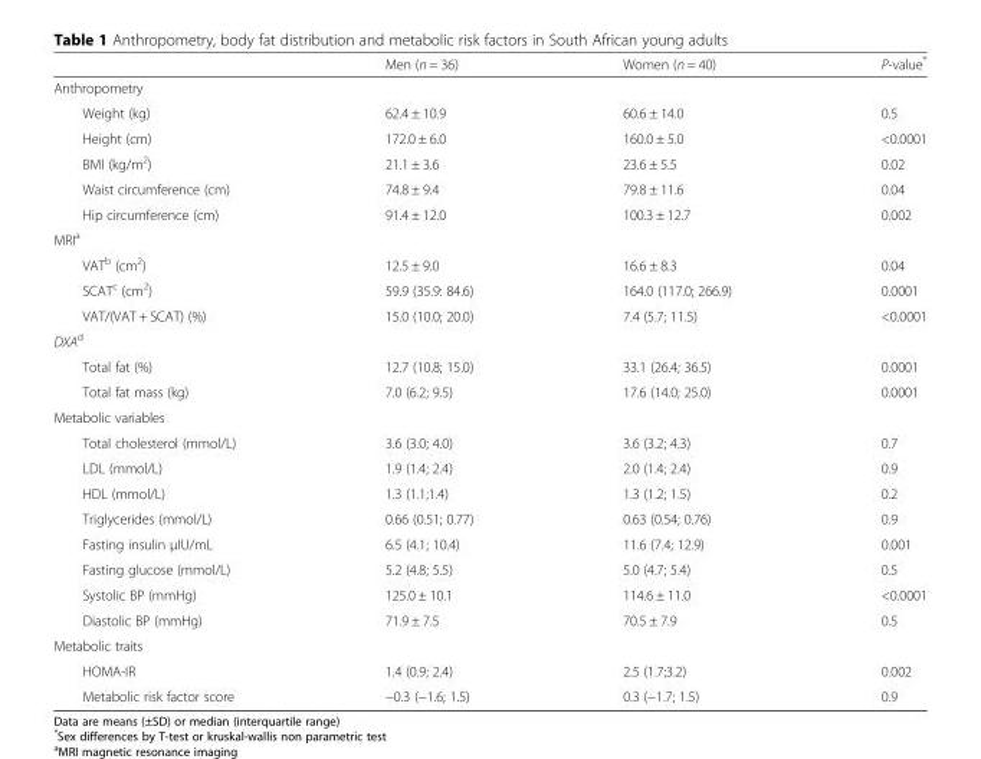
<table><thead><tr><td></td><td>Men (n = 36)</td><td>Women (n = 40)</td><td>P-value*</td></tr></thead><tbody><tr><td colspan="4">Anthropometry</td></tr><tr><td>Weight (kg)</td><td>62.4 ± 10.9</td><td>60.6 ± 14.0</td><td>0.5</td></tr><tr><td>Height (cm)</td><td>172.0 ± 6.0</td><td>160.0 ± 5.0</td><td>&lt;0.0001</td></tr><tr><td>BMI (kg/m<sup>2</sup>)</td><td>21.1 ± 3.6</td><td>23.6 ± 5.5</td><td>0.02</td></tr><tr><td>Waist circumference (cm)</td><td>74.8 ± 9.4</td><td>79.8 ± 11.6</td><td>0.04</td></tr><tr><td>Hip circumference (cm)</td><td>91.4 ± 12.0</td><td>100.3 ± 12.7</td><td>0.002</td></tr><tr><td colspan="4">MRI<sup>a</sup></td></tr><tr><td>VAT<sup>b</sup> (cm<sup>2</sup>)</td><td>12.5 ± 9.0</td><td>16.6 ± 8.3</td><td>0.04</td></tr><tr><td>SCAT<sup>c</sup> (cm<sup>2</sup>)</td><td>59.9 (35.9: 84.6)</td><td>164.0 (117.0; 266.9)</td><td>0.0001</td></tr><tr><td>VAT/(VAT + SCAT) (%)</td><td>15.0 (10.0; 20.0)</td><td>7.4 (5.7; 11.5)</td><td>&lt;0.0001</td></tr><tr><td colspan="4">DXA<sup>d</sup></td></tr><tr><td>Total fat (%)</td><td>12.7 (10.8; 15.0)</td><td>33.1 (26.4; 36.5)</td><td>0.0001</td></tr><tr><td>Total fat mass (kg)</td><td>7.0 (6.2; 9.5)</td><td>17.6 (14.0; 25.0)</td><td>0.0001</td></tr><tr><td colspan="4">Metabolic variables</td></tr><tr><td>Total cholesterol (mmol/L)</td><td>3.6 (3.0; 4.0)</td><td>3.6 (3.2; 4.3)</td><td>0.7</td></tr><tr><td>LDL (mmol/L)</td><td>1.9 (1.4; 2.4)</td><td>2.0 (1.4; 2.4)</td><td>0.9</td></tr><tr><td>HDL (mmol/L)</td><td>1.3 (1.1;1.4)</td><td>1.3 (1.2; 1.5)</td><td>0.2</td></tr><tr><td>Triglycerides (mmol/L)</td><td>0.66 (0.51; 0.77)</td><td>0.63 (0.54; 0.76)</td><td>0.9</td></tr><tr><td>Fasting insulin μIU/mL</td><td>6.5 (4.1; 10.4)</td><td>11.6 (7.4; 12.9)</td><td>0.001</td></tr><tr><td>Fasting glucose (mmol/L)</td><td>5.2 (4.8; 5.5)</td><td>5.0 (4.7; 5.4)</td><td>0.5</td></tr><tr><td>Systolic BP (mmHg)</td><td>125.0 ± 10.1</td><td>114.6 ± 11.0</td><td>&lt;0.0001</td></tr><tr><td>Diastolic BP (mmHg)</td><td>71.9 ± 7.5</td><td>70.5 ± 7.9</td><td>0.5</td></tr><tr><td colspan="4">Metabolic traits</td></tr><tr><td>HOMA-IR</td><td>1.4 (0.9; 2.4)</td><td>2.5 (1.7;3.2)</td><td>0.002</td></tr><tr><td>Metabolic risk factor score</td><td>−0.3 (−1.6; 1.5)</td><td>0.3 (−1.7; 1.5)</td><td>0.9</td></tr></tbody></table>